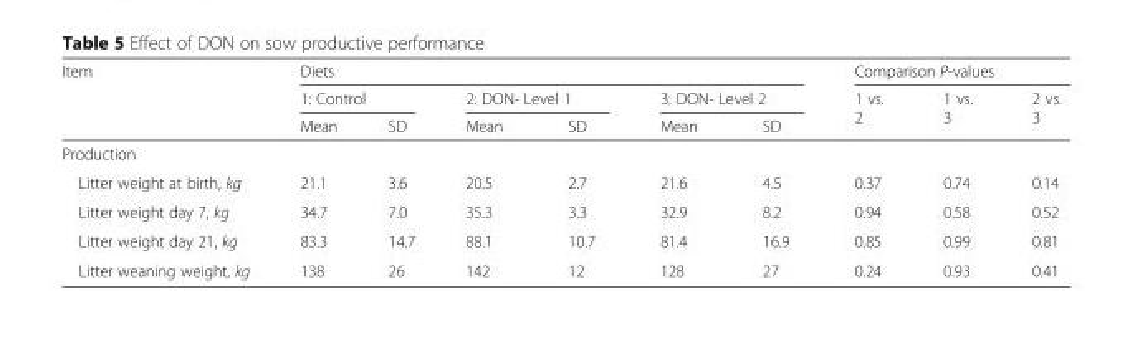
<table><thead><tr><td rowspan="3">Item</td><td colspan="6">Diets</td><td colspan="3">Comparison P-values</td></tr><tr><td colspan="2">1: Control</td><td colspan="2">2: DON- Level 1</td><td colspan="2">3: DON- Level 2</td><td rowspan="2">1 vs. 2</td><td rowspan="2">1 vs. 3</td><td rowspan="2">2 vs. 3</td></tr><tr><td>Mean</td><td>SD</td><td>Mean</td><td>SD</td><td>Mean</td><td>SD</td></tr></thead><tbody><tr><td colspan="10">Production</td></tr><tr><td>Litter weight at birth, kg</td><td>21.1</td><td>3.6</td><td>20.5</td><td>2.7</td><td>21.6</td><td>4.5</td><td>0.37</td><td>0.74</td><td>0.14</td></tr><tr><td>Litter weight day 7, kg</td><td>34.7</td><td>7.0</td><td>35.3</td><td>3.3</td><td>32.9</td><td>8.2</td><td>0.94</td><td>0.58</td><td>0.52</td></tr><tr><td>Litter weight day 21, kg</td><td>83.3</td><td>14.7</td><td>88.1</td><td>10.7</td><td>81.4</td><td>16.9</td><td>0.85</td><td>0.99</td><td>0.81</td></tr><tr><td>Litter weaning weight, kg</td><td>138</td><td>26</td><td>142</td><td>12</td><td>128</td><td>27</td><td>0.24</td><td>0.93</td><td>0.41</td></tr></tbody></table>